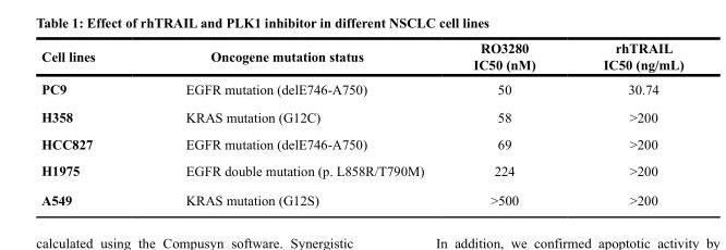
<table><thead><tr><td>Cell lines</td><td>Oncogene mutation status</td><td>RO3280 IC50 (nM)</td><td>rhTRAIL IC50 (ng/mL)</td></tr></thead><tbody><tr><td>PC9</td><td>EGFR mutation (delE746-A750)</td><td>50</td><td>30.74</td></tr><tr><td>H358</td><td>KRAS mutation (G12C)</td><td>58</td><td>&gt;200</td></tr><tr><td>HCC827</td><td>EGFR mutation (delE746-A750)</td><td>69</td><td>&gt;200</td></tr><tr><td>H1975</td><td>EGFR double mutation (p. L858R/T790M)</td><td>224</td><td>&gt;200</td></tr><tr><td>A549</td><td>KRAS mutation (G12S)</td><td>&gt;500</td><td>&gt;200</td></tr></tbody></table>